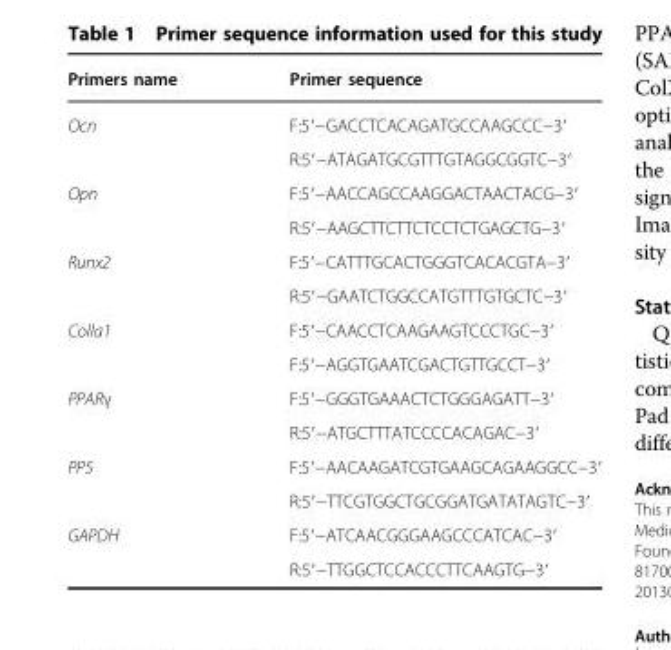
<table><thead><tr><td>Primers name</td><td>Primer sequence</td></tr></thead><tbody><tr><td rowspan="2">Ocn</td><td>F:5′−GACCTCACAGATGCCAAGCCC−3′</td></tr><tr><td>R:5′−ATAGATGCGTTTGTAGGCGGTC−3′</td></tr><tr><td rowspan="2">Opn</td><td>F:5′−AACCAGCCAAGGACTAACTACG−3′</td></tr><tr><td>R:5′−AAGCTTCTTCTCCTCTGAGCTG−3′</td></tr><tr><td rowspan="2">Runx2</td><td>F:5′−CATTTGCACTGGGTCACACGTA−3′</td></tr><tr><td>R:5′−GAATCTGGCCATGTTTGTGCTC−3′</td></tr><tr><td rowspan="2">Colla1</td><td>F:5′−CAACCTCAAGAAGTCCCTGC−3′</td></tr><tr><td>F:5′−AGGTGAATCGACTGTTGCCT−3′</td></tr><tr><td rowspan="2">PPARγ</td><td>F:5′−GGGTGAAACTCTGGGAGATT−3′</td></tr><tr><td>R:5′−ATGCTTTATCCCCACAGAC−3′</td></tr><tr><td rowspan="2">PP5</td><td>F:5′−AACAAGATCGTGAAGCAGAAGGCC−3′</td></tr><tr><td>R:5′−TTCGTGGCTGCGGATGATATAGTC−3′</td></tr><tr><td rowspan="2">GAPDH</td><td>F:5′−ATCAACGGGAAGCCCATCAC−3′</td></tr><tr><td>R:5′−TTGGCTCCACCCTTCAAGTG−3′</td></tr></tbody></table>